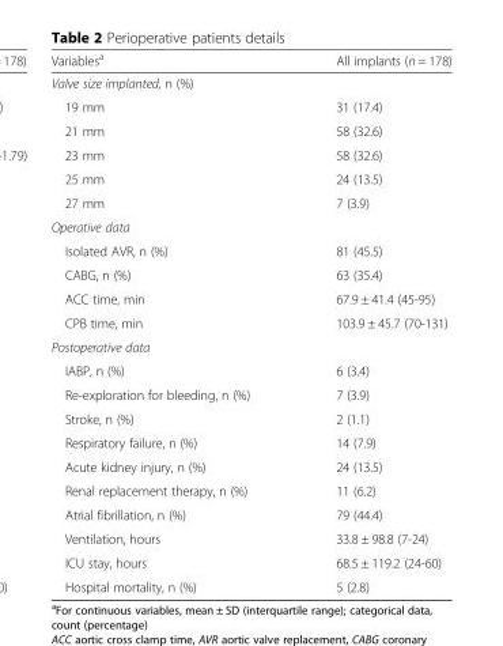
<table><thead><tr><td>Variables<sup>a</sup></td><td>All implants (n = 178)</td></tr></thead><tbody><tr><td colspan="2">Valve size implanted, n (%)</td></tr><tr><td>19 mm</td><td>31 (17.4)</td></tr><tr><td>21 mm</td><td>58 (32.6)</td></tr><tr><td>23 mm</td><td>58 (32.6)</td></tr><tr><td>25 mm</td><td>24 (13.5)</td></tr><tr><td>27 mm</td><td>7 (3.9)</td></tr><tr><td colspan="2">Operative data</td></tr><tr><td>Isolated AVR, n (%)</td><td>81 (45.5)</td></tr><tr><td>CABG, n (%)</td><td>63 (35.4)</td></tr><tr><td>ACC time, min</td><td>67.9 ± 41.4 (45-95)</td></tr><tr><td>CPB time, min</td><td>103.9 ± 45.7 (70-131)</td></tr><tr><td colspan="2">Postoperative data</td></tr><tr><td>IABP, n (%)</td><td>6 (3.4)</td></tr><tr><td>Re-exploration for bleeding, n (%)</td><td>7 (3.9)</td></tr><tr><td>Stroke, n (%)</td><td>2 (1.1)</td></tr><tr><td>Respiratory failure, n (%)</td><td>14 (7.9)</td></tr><tr><td>Acute kidney injury, n (%)</td><td>24 (13.5)</td></tr><tr><td>Renal replacement therapy, n (%)</td><td>11 (6.2)</td></tr><tr><td>Atrial fibrillation, n (%)</td><td>79 (44.4)</td></tr><tr><td>Ventilation, hours</td><td>33.8 ± 98.8 (7-24)</td></tr><tr><td>ICU stay, hours</td><td>68.5 ± 119.2 (24-60)</td></tr><tr><td>Hospital mortality, n (%)</td><td>5 (2.8)</td></tr></tbody></table>